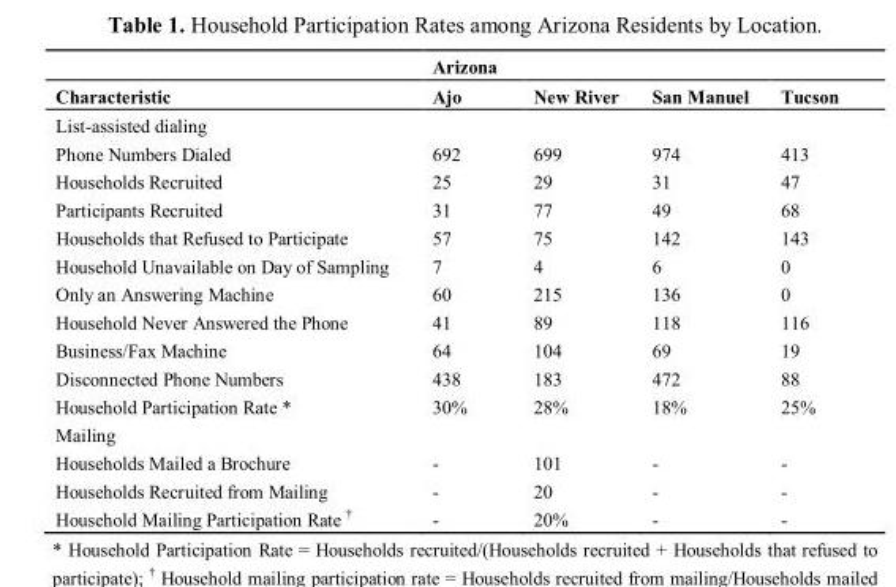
<table><thead><tr><td rowspan="2">Characteristic</td><td colspan="4">Arizona</td></tr><tr><td>Ajo</td><td>New River</td><td>San Manuel</td><td>Tucson</td></tr></thead><tbody><tr><td colspan="5">List-assisted dialing</td></tr><tr><td>Phone Numbers Dialed</td><td>692</td><td>699</td><td>974</td><td>413</td></tr><tr><td>Households Recruited</td><td>25</td><td>29</td><td>31</td><td>47</td></tr><tr><td>Participants Recruited</td><td>31</td><td>77</td><td>49</td><td>68</td></tr><tr><td>Households that Refused to Participate</td><td>57</td><td>75</td><td>142</td><td>143</td></tr><tr><td>Household Unavailable on Day of Sampling</td><td>7</td><td>4</td><td>6</td><td>0</td></tr><tr><td>Only an Answering Machine</td><td>60</td><td>215</td><td>136</td><td>0</td></tr><tr><td>Household Never Answered the Phone</td><td>41</td><td>89</td><td>118</td><td>116</td></tr><tr><td>Business/Fax Machine</td><td>64</td><td>104</td><td>69</td><td>19</td></tr><tr><td>Disconnected Phone Numbers</td><td>438</td><td>183</td><td>472</td><td>88</td></tr><tr><td>Household Participation Rate *</td><td>30%</td><td>28%</td><td>18%</td><td>25%</td></tr><tr><td colspan="5">Mailing</td></tr><tr><td>Households Mailed a Brochure</td><td>-</td><td>101</td><td>-</td><td>-</td></tr><tr><td>Households Recruited from Mailing</td><td>-</td><td>20</td><td>-</td><td>-</td></tr><tr><td>Household Mailing Participation Rate <sup>†</sup></td><td>-</td><td>20%</td><td>-</td><td>-</td></tr></tbody></table>